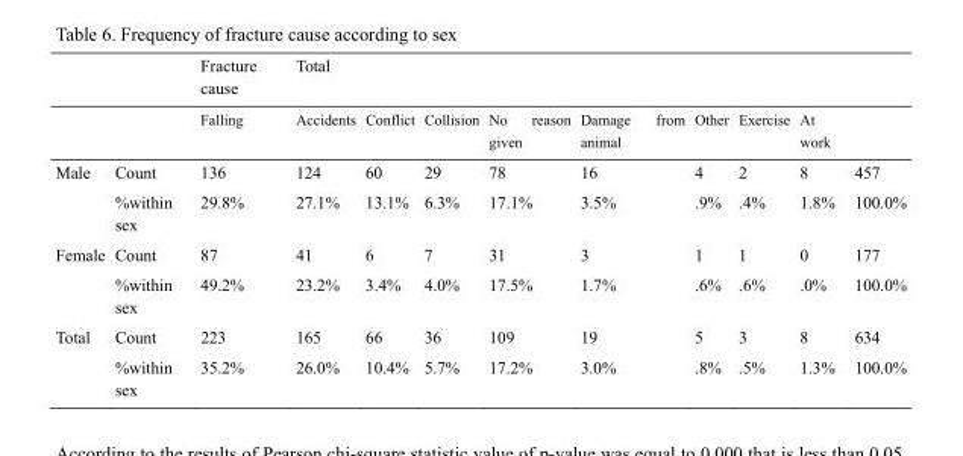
<table><thead><tr><td rowspan="2"></td><td rowspan="2"></td><td rowspan="2">Fracture cause Falling</td><td rowspan="2">Total Accidents</td><td rowspan="2">Conflict</td><td rowspan="2">Collision</td><td rowspan="2">No reason given</td><td rowspan="2">Damage from animal</td><td rowspan="2">Other</td><td rowspan="2">Exercise</td><td rowspan="2">At work</td><td rowspan="2"></td></tr><tr></tr></thead><tbody><tr><td rowspan="2">Male</td><td>Count</td><td>136</td><td>124</td><td>60</td><td>29</td><td>78</td><td>16</td><td>4</td><td>2</td><td>8</td><td>457</td></tr><tr><td>%within sex</td><td>29.8%</td><td>27.1%</td><td>13.1%</td><td>6.3%</td><td>17.1%</td><td>3.5%</td><td>.9%</td><td>.4%</td><td>1.8%</td><td>100.0%</td></tr><tr><td rowspan="2">Female</td><td>Count</td><td>87</td><td>41</td><td>6</td><td>7</td><td>31</td><td>3</td><td>1</td><td>1</td><td>0</td><td>177</td></tr><tr><td>%within sex</td><td>49.2%</td><td>23.2%</td><td>3.4%</td><td>4.0%</td><td>17.5%</td><td>1.7%</td><td>.6%</td><td>.6%</td><td>.0%</td><td>100.0%</td></tr><tr><td rowspan="2">Total</td><td>Count</td><td>223</td><td>165</td><td>66</td><td>36</td><td>109</td><td>19</td><td>5</td><td>3</td><td>8</td><td>634</td></tr><tr><td>%within sex</td><td>35.2%</td><td>26.0%</td><td>10.4%</td><td>5.7%</td><td>17.2%</td><td>3.0%</td><td>.8%</td><td>.5%</td><td>1.3%</td><td>100.0%</td></tr></tbody></table>